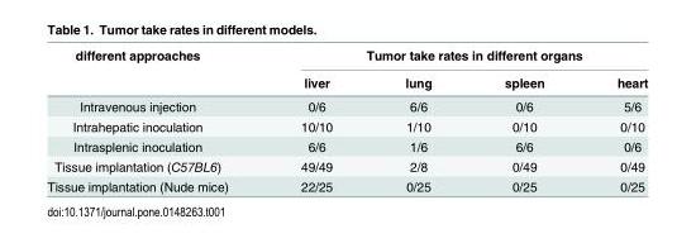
<table><thead><tr><td rowspan="2">different approaches</td><td colspan="4">Tumor take rates in different organs</td></tr><tr><td>liver</td><td>lung</td><td>spleen</td><td>heart</td></tr></thead><tbody><tr><td>Intravenous injection</td><td>0/6</td><td>6/6</td><td>0/6</td><td>5/6</td></tr><tr><td>Intrahepatic inoculation</td><td>10/10</td><td>1/10</td><td>0/10</td><td>0/10</td></tr><tr><td>Intrasplenic inoculation</td><td>6/6</td><td>1/6</td><td>6/6</td><td>0/6</td></tr><tr><td>Tissue implantation (C57BL6)</td><td>49/49</td><td>2/8</td><td>0/49</td><td>0/49</td></tr><tr><td>Tissue implantation (Nude mice)</td><td>22/25</td><td>0/25</td><td>0/25</td><td>0/25</td></tr></tbody></table>